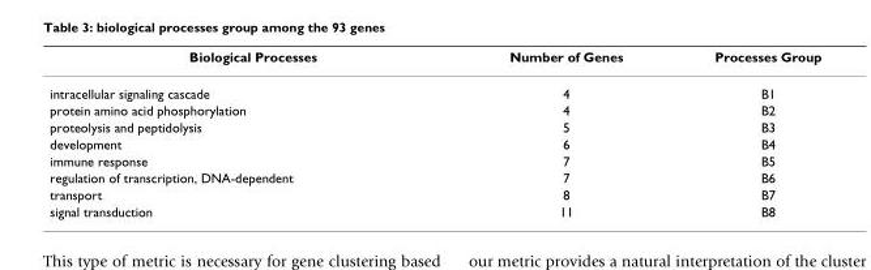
<table><thead><tr><td>Biological Processes</td><td>Number of Genes</td><td>Processes Group</td></tr></thead><tbody><tr><td>intracellular signaling cascade</td><td>4</td><td>B1</td></tr><tr><td>protein amino acid phosphorylation</td><td>4</td><td>B2</td></tr><tr><td>proteolysis and peptidolysis</td><td>5</td><td>B3</td></tr><tr><td>development</td><td>6</td><td>B4</td></tr><tr><td>immune response</td><td>7</td><td>B5</td></tr><tr><td>regulation of transcription, DNA-dependent</td><td>7</td><td>B6</td></tr><tr><td>transport</td><td>8</td><td>B7</td></tr><tr><td>signal transduction</td><td>11</td><td>B8</td></tr></tbody></table>